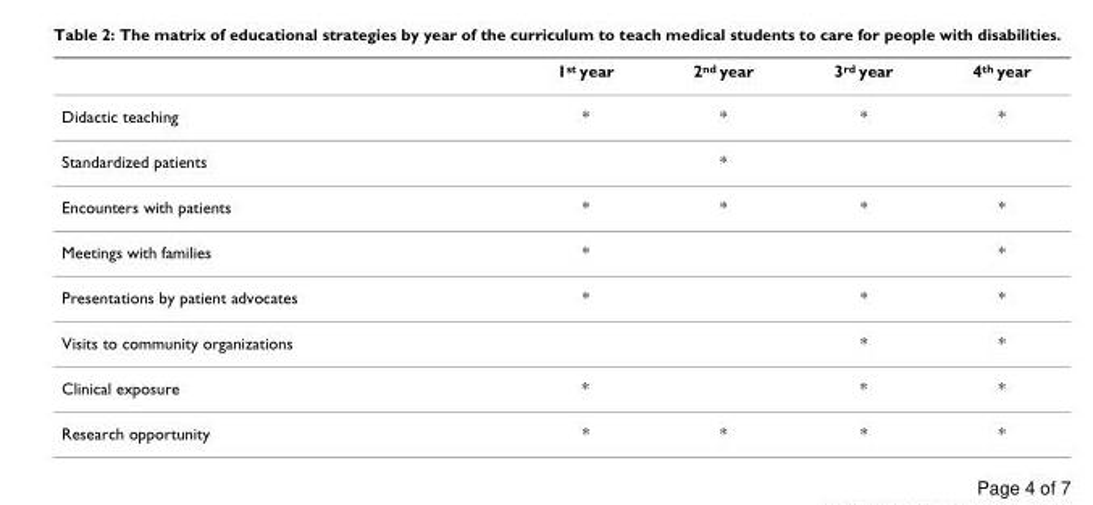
<table><thead><tr><td></td><td>1<sup>st</sup> year</td><td>2<sup>nd</sup> year</td><td>3<sup>rd</sup> year</td><td>4<sup>th</sup> year</td></tr></thead><tbody><tr><td>Didactic teaching</td><td>*</td><td>*</td><td>*</td><td>*</td></tr><tr><td>Standardized patients</td><td></td><td>*</td><td></td><td></td></tr><tr><td>Encounters with patients</td><td>*</td><td>*</td><td>*</td><td>*</td></tr><tr><td>Meetings with families</td><td>*</td><td></td><td></td><td>*</td></tr><tr><td>Presentations by patient advocates</td><td>*</td><td></td><td>*</td><td>*</td></tr><tr><td>Visits to community organizations</td><td></td><td></td><td>*</td><td>*</td></tr><tr><td>Clinical exposure</td><td>*</td><td></td><td>*</td><td>*</td></tr><tr><td>Research opportunity</td><td>*</td><td>*</td><td>*</td><td>*</td></tr></tbody></table>